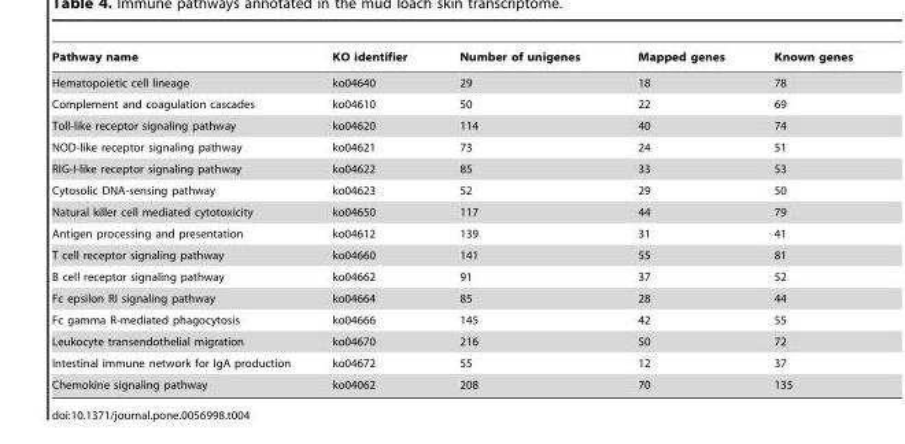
<table><thead><tr><td>Pathway name</td><td>KO identifier</td><td>Number of unigenes</td><td>Mapped genes</td><td>Known genes</td></tr></thead><tbody><tr><td>Hematopoietic cell lineage</td><td>ko04640</td><td>29</td><td>18</td><td>78</td></tr><tr><td>Complement and coagulation cascades</td><td>ko04610</td><td>50</td><td>22</td><td>69</td></tr><tr><td>Toll-like receptor signaling pathway</td><td>ko04620</td><td>114</td><td>40</td><td>74</td></tr><tr><td>NOD-like receptor signaling pathway</td><td>ko04621</td><td>73</td><td>24</td><td>51</td></tr><tr><td>RIG-I-like receptor signaling pathway</td><td>ko04622</td><td>85</td><td>33</td><td>53</td></tr><tr><td>Cytosolic DNA-sensing pathway</td><td>ko04623</td><td>52</td><td>29</td><td>50</td></tr><tr><td>Natural killer cell mediated cytotoxicity</td><td>ko04650</td><td>117</td><td>44</td><td>79</td></tr><tr><td>Antigen processing and presentation</td><td>ko04612</td><td>139</td><td>31</td><td>41</td></tr><tr><td>T cell receptor signaling pathway</td><td>ko04660</td><td>141</td><td>55</td><td>81</td></tr><tr><td>B cell receptor signaling pathway</td><td>ko04662</td><td>91</td><td>37</td><td>52</td></tr><tr><td>Fc epsilon RI signaling pathway</td><td>ko04664</td><td>85</td><td>28</td><td>44</td></tr><tr><td>Fc gamma R-mediated phagocytosis</td><td>ko04666</td><td>145</td><td>42</td><td>55</td></tr><tr><td>Leukocyte transendothelial migration</td><td>ko04670</td><td>216</td><td>50</td><td>72</td></tr><tr><td>Intestinal immune network for IgA production</td><td>ko04672</td><td>55</td><td>12</td><td>37</td></tr><tr><td>Chemokine signaling pathway</td><td>ko04062</td><td>208</td><td>70</td><td>135</td></tr></tbody></table>